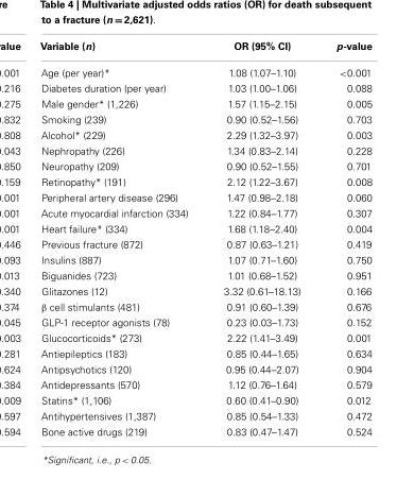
<table><thead><tr><td>Variable (n)</td><td>OR (95% CI)</td><td>p-value</td></tr></thead><tbody><tr><td>Age (per year)*</td><td>1.08 (1.07–1.10)</td><td>&lt;0.001</td></tr><tr><td>Diabetes duration (per year)</td><td>1.03 (1.00–1.06)</td><td>0.088</td></tr><tr><td>Male gender* (1,226)</td><td>1.57 (1.15–2.15)</td><td>0.005</td></tr><tr><td>Smoking (239)</td><td>0.90 (0.52–1.56)</td><td>0.703</td></tr><tr><td>Alcohol* (229)</td><td>2.29 (1.32–3.97)</td><td>0.003</td></tr><tr><td>Nephropathy (226)</td><td>1.34 (0.83–2.14)</td><td>0.228</td></tr><tr><td>Neuropathy (209)</td><td>0.90 (0.52–1.55)</td><td>0.701</td></tr><tr><td>Retinopathy* (191)</td><td>2.12 (1.22–3.67)</td><td>0.008</td></tr><tr><td>Peripheral artery disease (296)</td><td>1.47 (0.98–2.18)</td><td>0.060</td></tr><tr><td>Acute myocardial infarction (334)</td><td>1.22 (0.84–1.77)</td><td>0.307</td></tr><tr><td>Heart failure* (334)</td><td>1.68 (1.18–2.40)</td><td>0.004</td></tr><tr><td>Previous fracture (872)</td><td>0.87 (0.63–1.21)</td><td>0.419</td></tr><tr><td>Insulins (887)</td><td>1.07 (0.71–1.60)</td><td>0.750</td></tr><tr><td>Biguanides (723)</td><td>1.01 (0.68–1.52)</td><td>0.951</td></tr><tr><td>Glitazones (12)</td><td>3.32 (0.61–18.13)</td><td>0.166</td></tr><tr><td>β cell stimulants (481)</td><td>0.91 (0.60–1.39)</td><td>0.676</td></tr><tr><td>GLP-1 receptor agonists (78)</td><td>0.23 (0.03–1.73)</td><td>0.152</td></tr><tr><td>Glucocorticoids* (273)</td><td>2.22 (1.41–3.49)</td><td>0.001</td></tr><tr><td>Antiepileptics (183)</td><td>0.85 (0.44–1.65)</td><td>0.634</td></tr><tr><td>Antipsychotics (120)</td><td>0.95 (0.44–2.07)</td><td>0.904</td></tr><tr><td>Antidepressants (570)</td><td>1.12 (0.76–1.64)</td><td>0.579</td></tr><tr><td>Statins* (1,106)</td><td>0.60 (0.41–0.90)</td><td>0.012</td></tr><tr><td>Antihypertensives (1,387)</td><td>0.85 (0.54–1.33)</td><td>0.472</td></tr><tr><td>Bone active drugs (219)</td><td>0.83 (0.47–1.47)</td><td>0.524</td></tr></tbody></table>